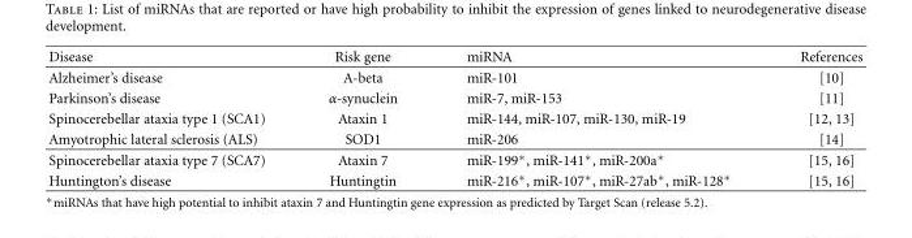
<table><thead><tr><td>Disease</td><td>Risk gene</td><td>miRNA</td><td>References</td></tr></thead><tbody><tr><td>Alzheimer’s disease</td><td>A-beta</td><td>miR-101</td><td>[10]</td></tr><tr><td>Parkinson’s disease</td><td>α-synuclein</td><td>miR-7, miR-153</td><td>[11]</td></tr><tr><td>Spinocerebellar ataxia type 1 (SCA1)</td><td>Ataxin 1</td><td>miR-144, miR-107, miR-130, miR-19</td><td>[12, 13]</td></tr><tr><td>Amyotrophic lateral sclerosis (ALS)</td><td>SOD1</td><td>miR-206</td><td>[14]</td></tr><tr><td>Spinocerebellar ataxia type 7 (SCA7)</td><td>Ataxin 7</td><td>miR-199∗, miR-141∗, miR-200a∗</td><td>[15, 16]</td></tr><tr><td>Huntington’s disease</td><td>Huntingtin</td><td>miR-216∗, miR-107∗, miR-27ab∗, miR-128∗</td><td>[15, 16]</td></tr></tbody></table>